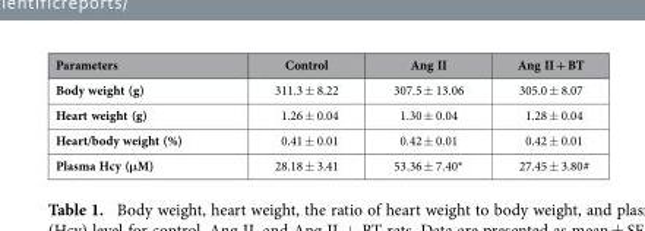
<table><thead><tr><td>Parameters</td><td>Control</td><td>Ang II</td><td>Ang II + BT</td></tr></thead><tbody><tr><td>Body weight (g)</td><td>311.3 ± 8.22</td><td>307.5 ± 13.06</td><td>305.0 ± 8.07</td></tr><tr><td>Heart weight (g)</td><td>1.26 ± 0.04</td><td>1.30 ± 0.04</td><td>1.28 ± 0.04</td></tr><tr><td>Heart/body weight (%)</td><td>0.41 ± 0.01</td><td>0.42 ± 0.01</td><td>0.42 ± 0.01</td></tr><tr><td>Plasma Hcy (μM)</td><td>28.18 ± 3.41</td><td>53.36 ± 7.40*</td><td>27.45 ± 3.80#</td></tr></tbody></table>